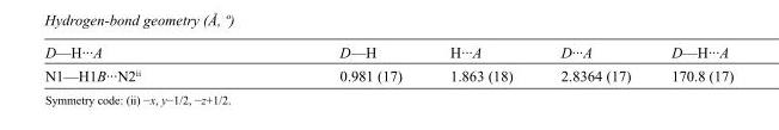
<table><tbody><tr><td>D—H···A</td><td>D—H</td><td>H···A</td><td>D···A</td><td>D—H···A</td></tr><tr><td>N1—H1B···N2<sup>ii</sup></td><td>0.981 (17)</td><td>1.863 (18)</td><td>2.8364 (17)</td><td>170.8 (17)</td></tr></tbody></table>